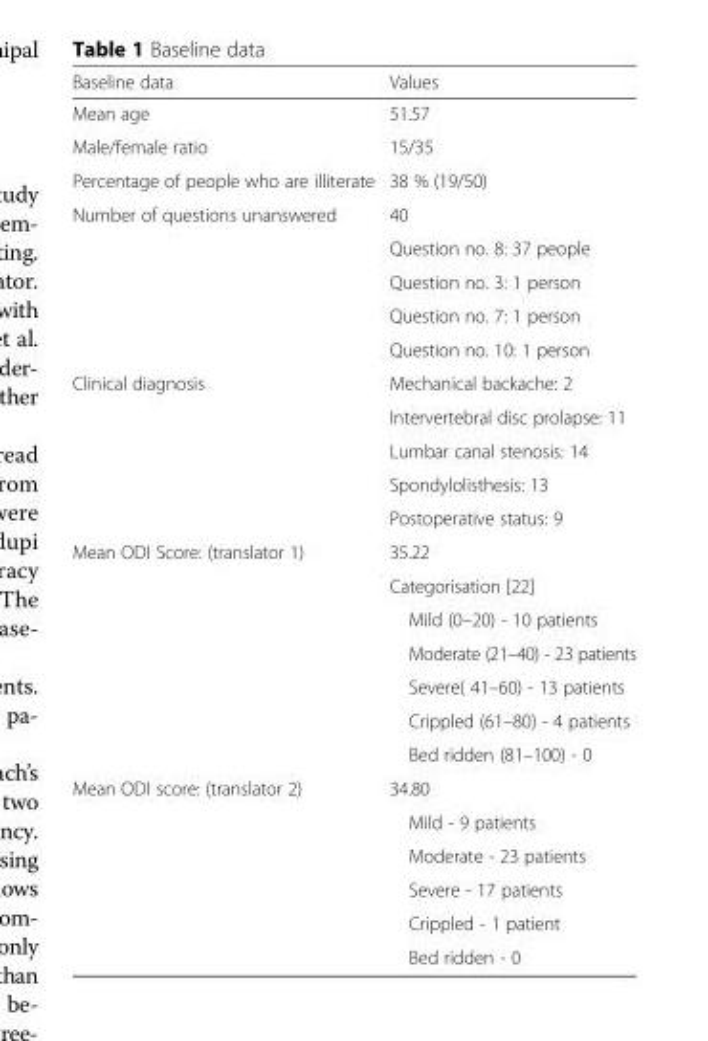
<table><thead><tr><td>Baseline data</td><td>Values</td></tr></thead><tbody><tr><td>Mean age</td><td>51.57</td></tr><tr><td>Male/female ratio</td><td>15/35</td></tr><tr><td>Percentage of people who are illiterate</td><td>38 % (19/50)</td></tr><tr><td rowspan="5">Number of questions unanswered</td><td>40</td></tr><tr><td>Question no. 8: 37 people</td></tr><tr><td>Question no. 3: 1 person</td></tr><tr><td>Question no. 7: 1 person</td></tr><tr><td>Question no. 10: 1 person</td></tr><tr><td rowspan="5">Clinical diagnosis</td><td>Mechanical backache: 2</td></tr><tr><td>Intervertebral disc prolapse: 11</td></tr><tr><td>Lumbar canal stenosis: 14</td></tr><tr><td>Spondylolisthesis: 13</td></tr><tr><td>Postoperative status: 9</td></tr><tr><td rowspan="7">Mean ODI Score: (translator 1)</td><td>35.22</td></tr><tr><td>Categorisation [22]</td></tr><tr><td>Mild (0–20) - 10 patients</td></tr><tr><td>Moderate (21–40) - 23 patients</td></tr><tr><td>Severe( 41–60) - 13 patients</td></tr><tr><td>Crippled (61–80) - 4 patients</td></tr><tr><td>Bed ridden (81–100) - 0</td></tr><tr><td rowspan="6">Mean ODI score: (translator 2)</td><td>34.80</td></tr><tr><td>Mild - 9 patients</td></tr><tr><td>Moderate - 23 patients</td></tr><tr><td>Severe - 17 patients</td></tr><tr><td>Crippled - 1 patient</td></tr><tr><td>Bed ridden - 0</td></tr></tbody></table>